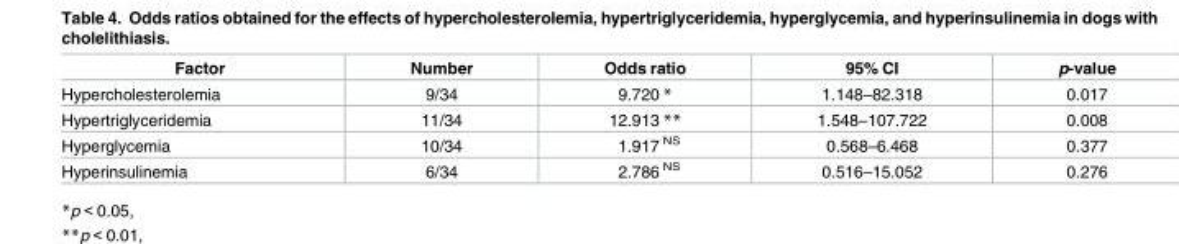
<table><thead><tr><td>Factor</td><td>Number</td><td>Odds ratio</td><td>95% CI</td><td>p-value</td></tr></thead><tbody><tr><td>Hypercholesterolemia</td><td>9/34</td><td>9.720 *</td><td>1.148–82.318</td><td>0.017</td></tr><tr><td>Hypertriglyceridemia</td><td>11/34</td><td>12.913 **</td><td>1.548–107.722</td><td>0.008</td></tr><tr><td>Hyperglycemia</td><td>10/34</td><td>1.917 <sup>NS</sup></td><td>0.568–6.468</td><td>0.377</td></tr><tr><td>Hyperinsulinemia</td><td>6/34</td><td>2.786 <sup>NS</sup></td><td>0.516–15.052</td><td>0.276</td></tr></tbody></table>